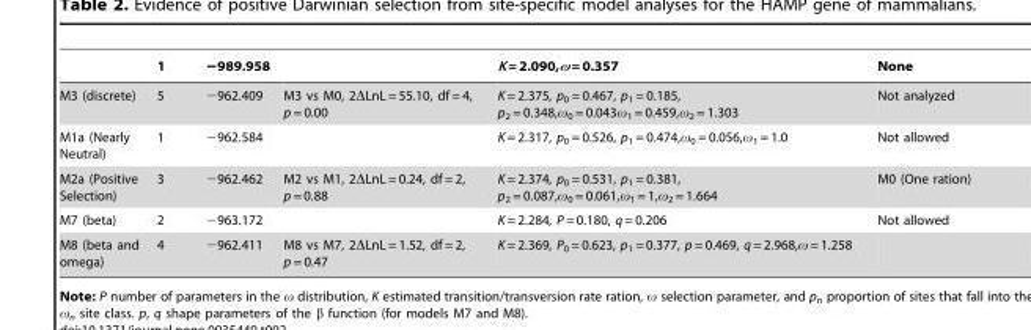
<table><thead><tr><td></td><td>1</td><td>−989.958</td><td></td><td>K = 2.090,ω = 0.357</td><td>None</td></tr></thead><tbody><tr><td>M3 (discrete)</td><td>5</td><td>−962.409</td><td>M3 vs M0, 2ΔLnL = 55.10, df = 4, p = 0.00</td><td>K = 2.375, p<sub>0</sub> = 0.467, p<sub>1</sub> = 0.185, p<sub>2</sub> = 0.348,ω<sub>0</sub> = 0.043ω<sub>1</sub> = 0.459,ω<sub>2</sub> = 1.303</td><td>Not analyzed</td></tr><tr><td>M1a (Nearly Neutral)</td><td>1</td><td>−962.584</td><td></td><td>K = 2.317, p<sub>0</sub> = 0.526, p<sub>1</sub> = 0.474,ω<sub>0</sub> = 0.056,ω<sub>1</sub> = 1.0</td><td>Not allowed</td></tr><tr><td>M2a (Positive Selection)</td><td>3</td><td>−962.462</td><td>M2 vs M1, 2ΔLnL = 0.24, df = 2, p = 0.88</td><td>K = 2.374, p<sub>0</sub> = 0.531, p<sub>1</sub> = 0.381, p<sub>2</sub> = 0.087,ω<sub>0</sub> = 0.061,ω<sub>1</sub> = 1,ω<sub>2</sub> = 1.664</td><td>M0 (One ration)</td></tr><tr><td>M7 (beta)</td><td>2</td><td>−963.172</td><td></td><td>K = 2.284, P = 0.180, q = 0.206</td><td>Not allowed</td></tr><tr><td>M8 (beta and omega)</td><td>4</td><td>−962.411</td><td>M8 vs M7, 2ΔLnL = 1.52, df = 2, p = 0.47</td><td>K = 2.369, P<sub>0</sub> = 0.623, p<sub>1</sub> = 0.377, p = 0.469, q = 2.968,ω = 1.258</td><td></td></tr></tbody></table>